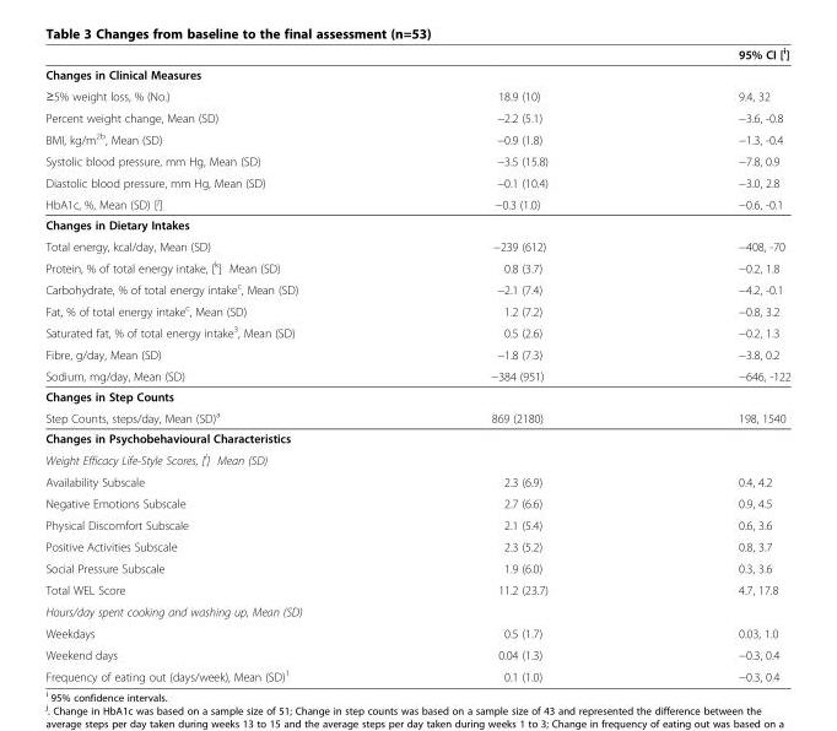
<table><thead><tr><td></td><td></td><td>95% CI [<sup>i</sup>]</td></tr></thead><tbody><tr><td colspan="3">Changes in Clinical Measures</td></tr><tr><td>≥5% weight loss, % (No.)</td><td>18.9 (10)</td><td>9.4, 32</td></tr><tr><td>Percent weight change, Mean (SD)</td><td>−2.2 (5.1)</td><td>−3.6, -0.8</td></tr><tr><td>BMI, kg/m<sup>2b</sup>, Mean (SD)</td><td>−0.9 (1.8)</td><td>−1.3, -0.4</td></tr><tr><td>Systolic blood pressure, mm Hg, Mean (SD)</td><td>−3.5 (15.8)</td><td>−7.8, 0.9</td></tr><tr><td>Diastolic blood pressure, mm Hg, Mean (SD)</td><td>−0.1 (10.4)</td><td>−3.0, 2.8</td></tr><tr><td>HbA1c, %, Mean (SD) [<sup>j</sup>]</td><td>−0.3 (1.0)</td><td>−0.6, -0.1</td></tr><tr><td colspan="3">Changes in Dietary Intakes</td></tr><tr><td>Total energy, kcal/day, Mean (SD)</td><td>−239 (612)</td><td>−408, -70</td></tr><tr><td>Protein, % of total energy intake, [<sup>k</sup>] Mean (SD)</td><td>0.8 (3.7)</td><td>−0.2, 1.8</td></tr><tr><td>Carbohydrate, % of total energy intake<sup>c</sup>, Mean (SD)</td><td>−2.1 (7.4)</td><td>−4.2, -0.1</td></tr><tr><td>Fat, % of total energy intake<sup>c</sup>, Mean (SD)</td><td>1.2 (7.2)</td><td>−0.8, 3.2</td></tr><tr><td>Saturated fat, % of total energy intake<sup>3</sup>, Mean (SD)</td><td>0.5 (2.6)</td><td>−0.2, 1.3</td></tr><tr><td>Fibre, g/day, Mean (SD)</td><td>−1.8 (7.3)</td><td>−3.8, 0.2</td></tr><tr><td>Sodium, mg/day, Mean (SD)</td><td>−384 (951)</td><td>−646, -122</td></tr><tr><td colspan="3">Changes in Step Counts</td></tr><tr><td>Step Counts, steps/day, Mean (SD)<sup>a</sup></td><td>869 (2180)</td><td>198, 1540</td></tr><tr><td colspan="3">Changes in Psychobehavioural Characteristics</td></tr><tr><td colspan="3">Weight Efficacy Life-Style Scores, [<sup>l</sup>] Mean (SD)</td></tr><tr><td>Availability Subscale</td><td>2.3 (6.9)</td><td>0.4, 4.2</td></tr><tr><td>Negative Emotions Subscale</td><td>2.7 (6.6)</td><td>0.9, 4.5</td></tr><tr><td>Physical Discomfort Subscale</td><td>2.1 (5.4)</td><td>0.6, 3.6</td></tr><tr><td>Positive Activities Subscale</td><td>2.3 (5.2)</td><td>0.8, 3.7</td></tr><tr><td>Social Pressure Subscale</td><td>1.9 (6.0)</td><td>0.3, 3.6</td></tr><tr><td>Total WEL Score</td><td>11.2 (23.7)</td><td>4.7, 17.8</td></tr><tr><td colspan="3">Hours/day spent cooking and washing up, Mean (SD)</td></tr><tr><td>Weekdays</td><td>0.5 (1.7)</td><td>0.03, 1.0</td></tr><tr><td>Weekend days</td><td>0.04 (1.3)</td><td>−0.3, 0.4</td></tr><tr><td>Frequency of eating out (days/week), Mean (SD)<sup>1</sup></td><td>0.1 (1.0)</td><td>−0.3, 0.4</td></tr></tbody></table>